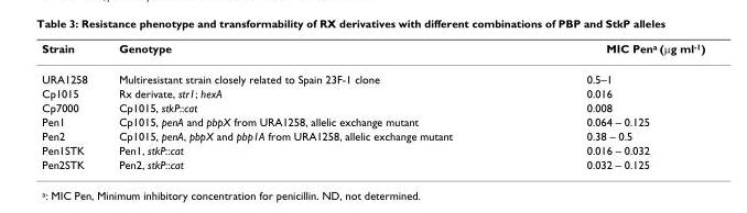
<table><thead><tr><td>Strain</td><td>Genotype</td><td>MIC Pen<sup>a</sup> (μg ml<sup>-1</sup>)</td></tr></thead><tbody><tr><td>URA1258</td><td>Multiresistant strain closely related to Spain 23F-1 clone</td><td>0.5–1</td></tr><tr><td>Cp1015</td><td>Rx derivate, str1; hexA</td><td>0.016</td></tr><tr><td>Cp7000</td><td>Cp1015, stkP::cat</td><td>0.008</td></tr><tr><td>Pen1</td><td>Cp1015, penA and pbpX from URA1258, allelic exchange mutant</td><td>0.064 – 0.125</td></tr><tr><td>Pen2</td><td>Cp1015, penA, pbpX and pbp1A from URA1258, allelic exchange mutant</td><td>0.38 – 0.5</td></tr><tr><td>Pen1STK</td><td>Pen1, stkP::cat</td><td>0.016 – 0.032</td></tr><tr><td>Pen2STK</td><td>Pen2, stkP::cat</td><td>0.032 – 0.125</td></tr></tbody></table>